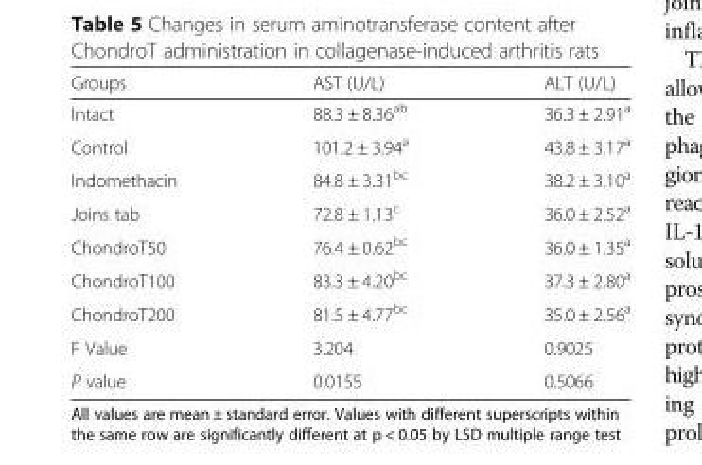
<table><thead><tr><td>Groups</td><td>AST (U/L)</td><td>ALT (U/L)</td></tr></thead><tbody><tr><td>Intact</td><td>88.3 ± 8.36<sup>ab</sup></td><td>36.3 ± 2.91<sup>a</sup></td></tr><tr><td>Control</td><td>101.2 ± 3.94<sup>a</sup></td><td>43.8 ± 3.17<sup>a</sup></td></tr><tr><td>Indomethacin</td><td>84.8 ± 3.31<sup>bc</sup></td><td>38.2 ± 3.10<sup>a</sup></td></tr><tr><td>Joins tab</td><td>72.8 ± 1.13<sup>c</sup></td><td>36.0 ± 2.52<sup>a</sup></td></tr><tr><td>ChondroT50</td><td>76.4 ± 0.62<sup>bc</sup></td><td>36.0 ± 1.35<sup>a</sup></td></tr><tr><td>ChondroT100</td><td>83.3 ± 4.20<sup>bc</sup></td><td>37.3 ± 2.80<sup>a</sup></td></tr><tr><td>ChondroT200</td><td>81.5 ± 4.77<sup>bc</sup></td><td>35.0 ± 2.56<sup>a</sup></td></tr><tr><td>F Value</td><td>3.204</td><td>0.9025</td></tr><tr><td>P value</td><td>0.0155</td><td>0.5066</td></tr></tbody></table>